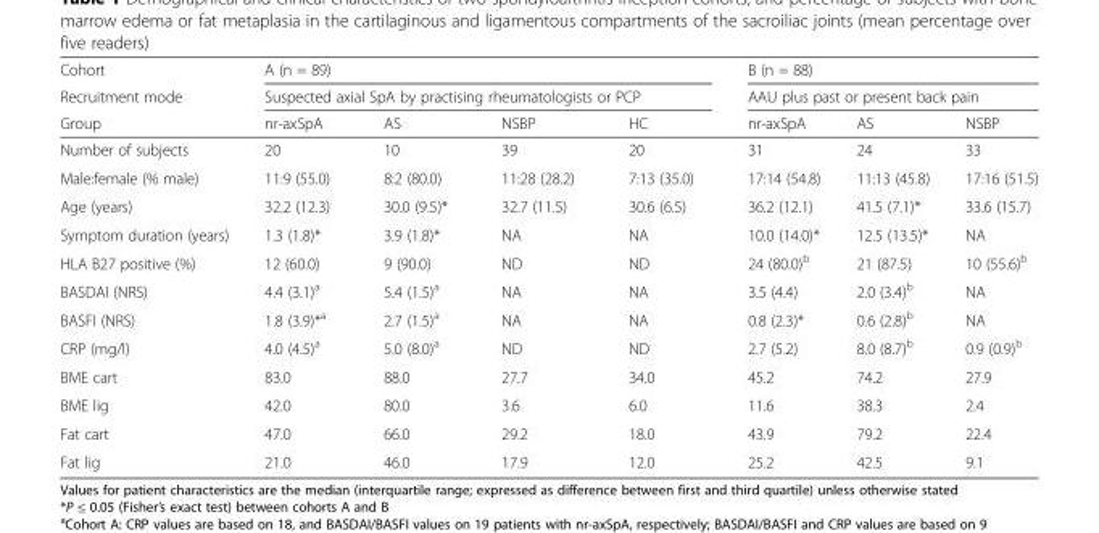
<table><thead><tr><td rowspan="3">Cohort Recruitment mode Group</td><td rowspan="2" colspan="4">A (n = 89) Suspected axial SpA by practising rheumatologists or PCP</td><td rowspan="2" colspan="3">B (n = 88) AAU plus past or present back pain</td></tr><tr></tr><tr><td>nr-axSpA</td><td>AS</td><td>NSBP</td><td>HC</td><td>nr-axSpA</td><td>AS</td><td>NSBP</td></tr></thead><tbody><tr><td>Number of subjects</td><td>20</td><td>10</td><td>39</td><td>20</td><td>31</td><td>24</td><td>33</td></tr><tr><td>Male:female (% male)</td><td>11:9 (55.0)</td><td>8:2 (80.0)</td><td>11:28 (28.2)</td><td>7:13 (35.0)</td><td>17:14 (54.8)</td><td>11:13 (45.8)</td><td>17:16 (51.5)</td></tr><tr><td>Age (years)</td><td>32.2 (12.3)</td><td>30.0 (9.5)*</td><td>32.7 (11.5)</td><td>30.6 (6.5)</td><td>36.2 (12.1)</td><td>41.5 (7.1)*</td><td>33.6 (15.7)</td></tr><tr><td>Symptom duration (years)</td><td>1.3 (1.8)*</td><td>3.9 (1.8)*</td><td>NA</td><td>NA</td><td>10.0 (14.0)*</td><td>12.5 (13.5)*</td><td>NA</td></tr><tr><td>HLA B27 positive (%)</td><td>12 (60.0)</td><td>9 (90.0)</td><td>ND</td><td>ND</td><td>24 (80.0)<sup>b</sup></td><td>21 (87.5)</td><td>10 (55.6)<sup>b</sup></td></tr><tr><td>BASDAI (NRS)</td><td>4.4 (3.1)<sup>a</sup></td><td>5.4 (1.5)<sup>a</sup></td><td>NA</td><td>NA</td><td>3.5 (4.4)</td><td>2.0 (3.4)<sup>b</sup></td><td>NA</td></tr><tr><td>BASFI (NRS)</td><td>1.8 (3.9)*<sup>a</sup></td><td>2.7 (1.5)<sup>a</sup></td><td>NA</td><td>NA</td><td>0.8 (2.3)*</td><td>0.6 (2.8)<sup>b</sup></td><td>NA</td></tr><tr><td>CRP (mg/l)</td><td>4.0 (4.5)<sup>a</sup></td><td>5.0 (8.0)<sup>a</sup></td><td>ND</td><td>ND</td><td>2.7 (5.2)</td><td>8.0 (8.7)<sup>b</sup></td><td>0.9 (0.9)<sup>b</sup></td></tr><tr><td>BME cart</td><td>83.0</td><td>88.0</td><td>27.7</td><td>34.0</td><td>45.2</td><td>74.2</td><td>27.9</td></tr><tr><td>BME lig</td><td>42.0</td><td>80.0</td><td>3.6</td><td>6.0</td><td>11.6</td><td>38.3</td><td>2.4</td></tr><tr><td>Fat cart</td><td>47.0</td><td>66.0</td><td>29.2</td><td>18.0</td><td>43.9</td><td>79.2</td><td>22.4</td></tr><tr><td>Fat lig</td><td>21.0</td><td>46.0</td><td>17.9</td><td>12.0</td><td>25.2</td><td>42.5</td><td>9.1</td></tr></tbody></table>